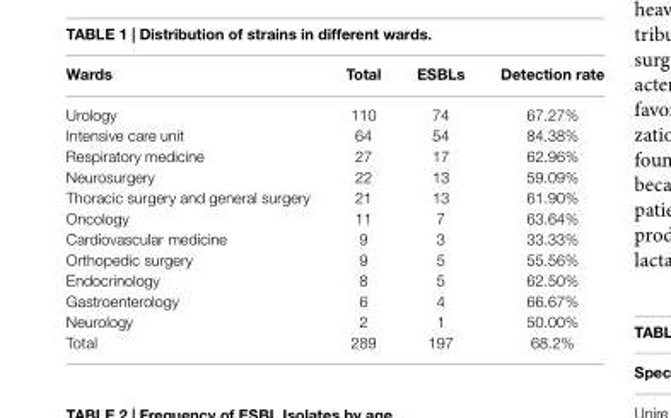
<table><thead><tr><td>Wards</td><td>Total</td><td>ESBLs</td><td>Detection rate</td></tr></thead><tbody><tr><td>Urology</td><td>110</td><td>74</td><td>67.27%</td></tr><tr><td>Intensive care unit</td><td>64</td><td>54</td><td>84.38%</td></tr><tr><td>Respiratory medicine</td><td>27</td><td>17</td><td>62.96%</td></tr><tr><td>Neurosurgery</td><td>22</td><td>13</td><td>59.09%</td></tr><tr><td>Thoracic surgery and general surgery</td><td>21</td><td>13</td><td>61.90%</td></tr><tr><td>Oncology</td><td>11</td><td>7</td><td>63.64%</td></tr><tr><td>Cardiovascular medicine</td><td>9</td><td>3</td><td>33.33%</td></tr><tr><td>Orthopedic surgery</td><td>9</td><td>5</td><td>55.56%</td></tr><tr><td>Endocrinology</td><td>8</td><td>5</td><td>62.50%</td></tr><tr><td>Gastroenterology</td><td>6</td><td>4</td><td>66.67%</td></tr><tr><td>Neurology</td><td>2</td><td>1</td><td>50.00%</td></tr><tr><td>Total</td><td>289</td><td>197</td><td>68.2%</td></tr></tbody></table>